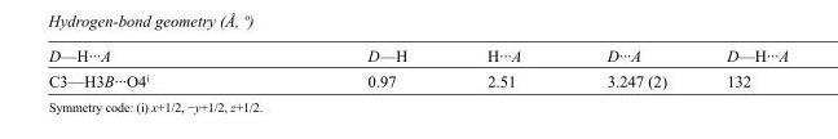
<table><tbody><tr><td>D—H···A</td><td>D—H</td><td>H···A</td><td>D···A</td><td>D—H···A</td></tr><tr><td>C3—H3B···O4<sup>i</sup></td><td>0.97</td><td>2.51</td><td>3.247 (2)</td><td>132</td></tr></tbody></table>